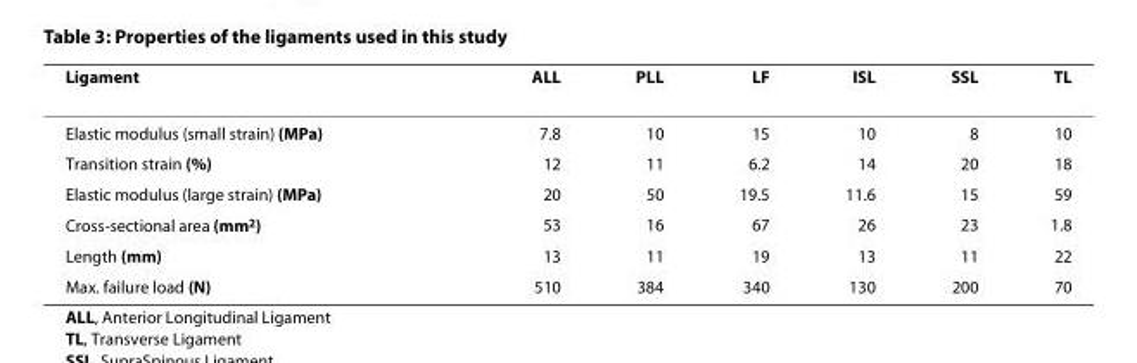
<table><thead><tr><td>Ligament</td><td>ALL</td><td>PLL</td><td>LF</td><td>ISL</td><td>SSL</td><td>TL</td></tr></thead><tbody><tr><td>Elastic modulus (small strain) (MPa)</td><td>7.8</td><td>10</td><td>15</td><td>10</td><td>8</td><td>10</td></tr><tr><td>Transition strain (%)</td><td>12</td><td>11</td><td>6.2</td><td>14</td><td>20</td><td>18</td></tr><tr><td>Elastic modulus (large strain) (MPa)</td><td>20</td><td>50</td><td>19.5</td><td>11.6</td><td>15</td><td>59</td></tr><tr><td>Cross-sectional area (mm<sup>2</sup>)</td><td>53</td><td>16</td><td>67</td><td>26</td><td>23</td><td>1.8</td></tr><tr><td>Length (mm)</td><td>13</td><td>11</td><td>19</td><td>13</td><td>11</td><td>22</td></tr><tr><td>Max. failure load (N)</td><td>510</td><td>384</td><td>340</td><td>130</td><td>200</td><td>70</td></tr></tbody></table>